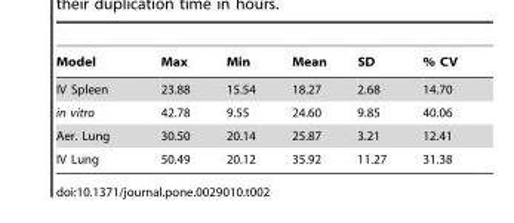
<table><thead><tr><td>Model</td><td>Max</td><td>Min</td><td>Mean</td><td>SD</td><td>% CV</td></tr></thead><tbody><tr><td>IV Spleen</td><td>23.88</td><td>15.54</td><td>18.27</td><td>2.68</td><td>14.70</td></tr><tr><td>in vitro</td><td>42.78</td><td>9.55</td><td>24.60</td><td>9.85</td><td>40.06</td></tr><tr><td>Aer. Lung</td><td>30.50</td><td>20.14</td><td>25.87</td><td>3.21</td><td>12.41</td></tr><tr><td>IV Lung</td><td>50.49</td><td>20.12</td><td>35.92</td><td>11.27</td><td>31.38</td></tr></tbody></table>